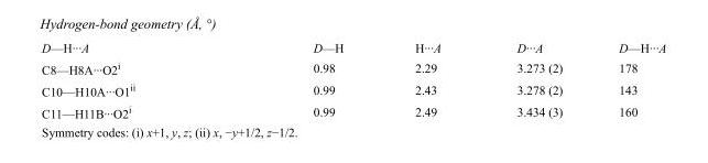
<table><tbody><tr><td>D—H···A</td><td>D—H</td><td>H···A</td><td>D···A</td><td>D—H···A</td></tr><tr><td>C8—H8A···O2<sup>i</sup></td><td>0.98</td><td>2.29</td><td>3.273 (2)</td><td>178</td></tr><tr><td>C10—H10A···O1<sup>ii</sup></td><td>0.99</td><td>2.43</td><td>3.278 (2)</td><td>143</td></tr><tr><td>C11—H11B···O2<sup>i</sup></td><td>0.99</td><td>2.49</td><td>3.434 (3)</td><td>160</td></tr></tbody></table>